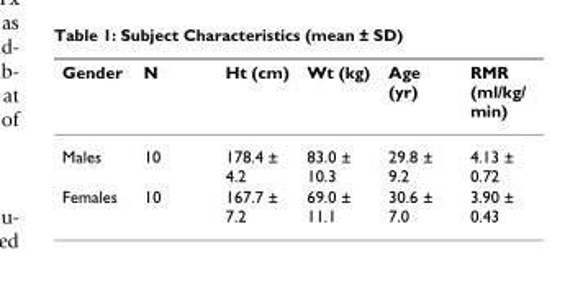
<table><thead><tr><td>Gender</td><td>N</td><td>Ht (cm)</td><td>Wt (kg)</td><td>Age (yr)</td><td>RMR (ml/kg/ min)</td></tr></thead><tbody><tr><td>Males</td><td>10</td><td>178.4 ± 4.2</td><td>83.0 ± 10.3</td><td>29.8 ± 9.2</td><td>4.13 ± 0.72</td></tr><tr><td>Females</td><td>10</td><td>167.7 ± 7.2</td><td>69.0 ± 11.1</td><td>30.6 ± 7.0</td><td>3.90 ± 0.43</td></tr></tbody></table>